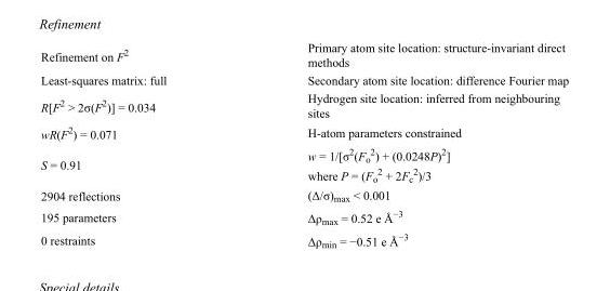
<table><tbody><tr><td>Refinement on F<sup>2</sup></td><td>Primary atom site location: structure-invariant direct methods</td></tr><tr><td>Least-squares matrix: full</td><td>Secondary atom site location: difference Fourier map</td></tr><tr><td>R[F<sup>2</sup> &gt; 2σ(F<sup>2</sup>)] = 0.034</td><td>Hydrogen site location: inferred from neighbouring sites</td></tr><tr><td>wR(F<sup>2</sup>) = 0.071</td><td>H-atom parameters constrained</td></tr><tr><td>S = 0.91</td><td>w = 1/[σ<sup>2</sup>(F<sub>o</sub> <sup>2</sup>) + (0.0248P)<sup>2</sup>] where P = (F<sub>o</sub> <sup>2</sup> + 2F<sub>c</sub> <sup>2</sup>)/3</td></tr><tr><td>2904 reflections</td><td>(Δ/σ)<sub>max</sub> &lt; 0.001</td></tr><tr><td>195 parameters</td><td>Δρ<sub>max</sub> = 0.52 e Å<sup>−3</sup></td></tr><tr><td>0 restraints</td><td>Δρ<sub>min</sub> = −0.51 e Å<sup>−3</sup></td></tr></tbody></table>